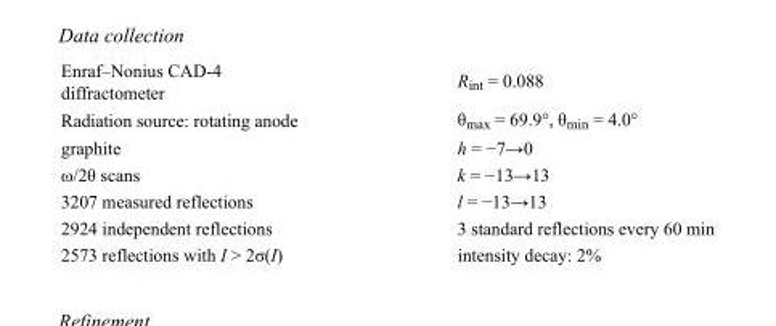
<table><tbody><tr><td>Enraf–Nonius CAD-4 diffractometer</td><td>R<sub>int</sub> = 0.088</td></tr><tr><td>Radiation source: rotating anode</td><td>θ<sub>max</sub> = 69.9°, θ<sub>min</sub> = 4.0°</td></tr><tr><td>graphite</td><td>h = −7→0</td></tr><tr><td>ω/2θ scans</td><td>k = −13→13</td></tr><tr><td>3207 measured reflections</td><td>l = −13→13</td></tr><tr><td>2924 independent reflections</td><td>3 standard reflections every 60 min</td></tr><tr><td>2573 reflections with I &gt; 2σ(I)</td><td>intensity decay: 2%</td></tr></tbody></table>